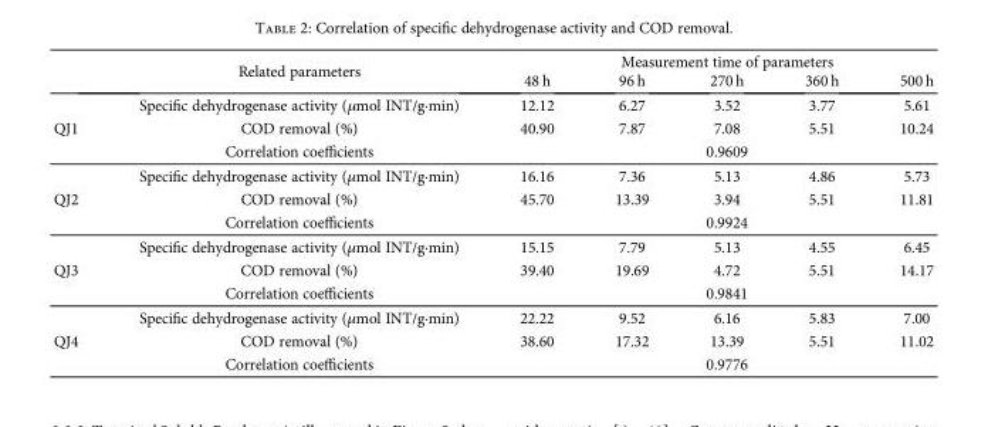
<table><thead><tr><td rowspan="2"></td><td rowspan="2">Related parameters</td><td colspan="5">Measurement time of parameters</td></tr><tr><td>48 h</td><td>96 h</td><td>270 h</td><td>360 h</td><td>500 h</td></tr></thead><tbody><tr><td rowspan="3">QJ1</td><td>Specific dehydrogenase activity (μmol INT/g·min)</td><td>12.12</td><td>6.27</td><td>3.52</td><td>3.77</td><td>5.61</td></tr><tr><td>COD removal (%)</td><td>40.90</td><td>7.87</td><td>7.08</td><td>5.51</td><td>10.24</td></tr><tr><td>Correlation coefficients</td><td colspan="5">0.9609</td></tr><tr><td rowspan="3">QJ2</td><td>Specific dehydrogenase activity (μmol INT/g·min)</td><td>16.16</td><td>7.36</td><td>5.13</td><td>4.86</td><td>5.73</td></tr><tr><td>COD removal (%)</td><td>45.70</td><td>13.39</td><td>3.94</td><td>5.51</td><td>11.81</td></tr><tr><td>Correlation coefficients</td><td colspan="5">0.9924</td></tr><tr><td rowspan="3">QJ3</td><td>Specific dehydrogenase activity (μmol INT/g·min)</td><td>15.15</td><td>7.79</td><td>5.13</td><td>4.55</td><td>6.45</td></tr><tr><td>COD removal (%)</td><td>39.40</td><td>19.69</td><td>4.72</td><td>5.51</td><td>14.17</td></tr><tr><td>Correlation coefficients</td><td colspan="5">0.9841</td></tr><tr><td rowspan="3">QJ4</td><td>Specific dehydrogenase activity (μmol INT/g·min)</td><td>22.22</td><td>9.52</td><td>6.16</td><td>5.83</td><td>7.00</td></tr><tr><td>COD removal (%)</td><td>38.60</td><td>17.32</td><td>13.39</td><td>5.51</td><td>11.02</td></tr><tr><td>Correlation coefficients</td><td colspan="5">0.9776</td></tr></tbody></table>